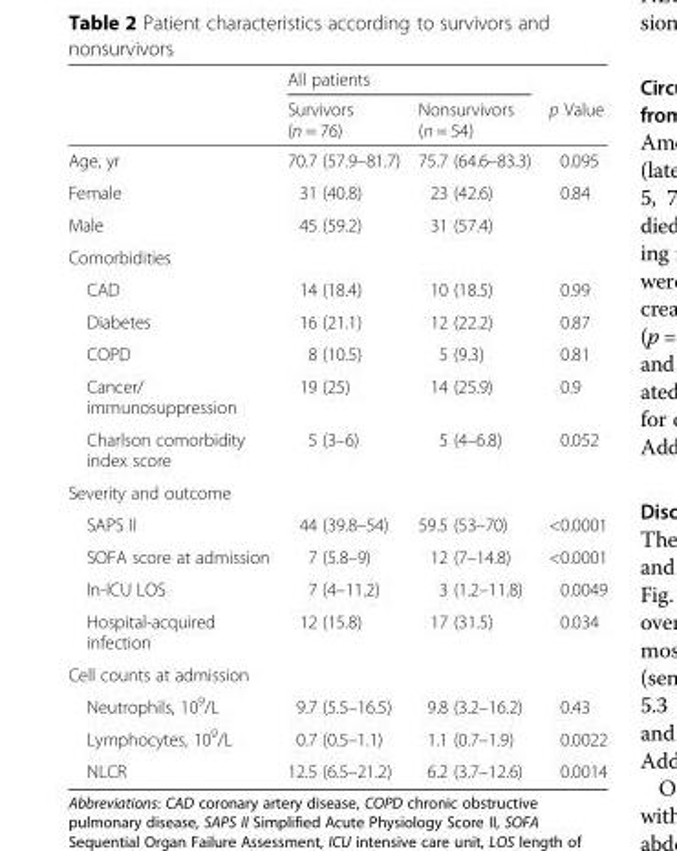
<table><thead><tr><td rowspan="2"></td><td colspan="2">All patients</td><td rowspan="2">p Value</td></tr><tr><td>Survivors (n = 76)</td><td>Nonsurvivors (n = 54)</td></tr></thead><tbody><tr><td>Age, yr</td><td>70.7 (57.9–81.7)</td><td>75.7 (64.6–83.3)</td><td>0.095</td></tr><tr><td>Female</td><td>31 (40.8)</td><td>23 (42.6)</td><td>0.84</td></tr><tr><td>Male</td><td>45 (59.2)</td><td>31 (57.4)</td><td></td></tr><tr><td colspan="4">Comorbidities</td></tr><tr><td>CAD</td><td>14 (18.4)</td><td>10 (18.5)</td><td>0.99</td></tr><tr><td>Diabetes</td><td>16 (21.1)</td><td>12 (22.2)</td><td>0.87</td></tr><tr><td>COPD</td><td>8 (10.5)</td><td>5 (9.3)</td><td>0.81</td></tr><tr><td>Cancer/ immunosuppression</td><td>19 (25)</td><td>14 (25.9)</td><td>0.9</td></tr><tr><td>Charlson comorbidity index score</td><td>5 (3–6)</td><td>5 (4–6.8)</td><td>0.052</td></tr><tr><td colspan="4">Severity and outcome</td></tr><tr><td>SAPS II</td><td>44 (39.8–54)</td><td>59.5 (53–70)</td><td>&lt;0.0001</td></tr><tr><td>SOFA score at admission</td><td>7 (5.8–9)</td><td>12 (7–14.8)</td><td>&lt;0.0001</td></tr><tr><td>In-ICU LOS</td><td>7 (4–11.2)</td><td>3 (1.2–11.8)</td><td>0.0049</td></tr><tr><td>Hospital-acquired infection</td><td>12 (15.8)</td><td>17 (31.5)</td><td>0.034</td></tr><tr><td colspan="4">Cell counts at admission</td></tr><tr><td>Neutrophils, 10<sup>9</sup>/L</td><td>9.7 (5.5–16.5)</td><td>9.8 (3.2–16.2)</td><td>0.43</td></tr><tr><td>Lymphocytes, 10<sup>9</sup>/L</td><td>0.7 (0.5–1.1)</td><td>1.1 (0.7–1.9)</td><td>0.0022</td></tr><tr><td>NLCR</td><td>12.5 (6.5–21.2)</td><td>6.2 (3.7–12.6)</td><td>0.0014</td></tr></tbody></table>